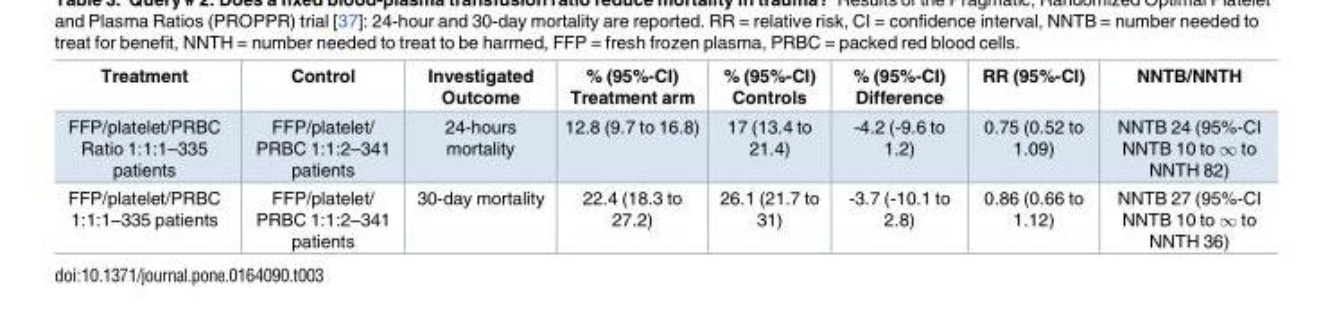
<table><thead><tr><td>Treatment</td><td>Control</td><td>Investigated Outcome</td><td>% (95%-CI) Treatment arm</td><td>% (95%-CI) Controls</td><td>% (95%-CI) Difference</td><td>RR (95%-CI)</td><td>NNTB/NNTH</td></tr></thead><tbody><tr><td>FFP/platelet/PRBC Ratio 1:1:1–335 patients</td><td>FFP/platelet/ PRBC 1:1:2–341 patients</td><td>24-hours mortality</td><td>12.8 (9.7 to 16.8)</td><td>17 (13.4 to 21.4)</td><td>-4.2 (-9.6 to 1.2)</td><td>0.75 (0.52 to 1.09)</td><td>NNTB 24 (95%-CI NNTB 10 to ∞ to NNTH 82)</td></tr><tr><td>FFP/platelet/PRBC 1:1:1–335 patients</td><td>FFP/platelet/ PRBC 1:1:2–341 patients</td><td>30-day mortality</td><td>22.4 (18.3 to 27.2)</td><td>26.1 (21.7 to 31)</td><td>-3.7 (-10.1 to 2.8)</td><td>0.86 (0.66 to 1.12)</td><td>NNTB 27 (95%-CI NNTB 10 to ∞ to NNTH 36)</td></tr></tbody></table>